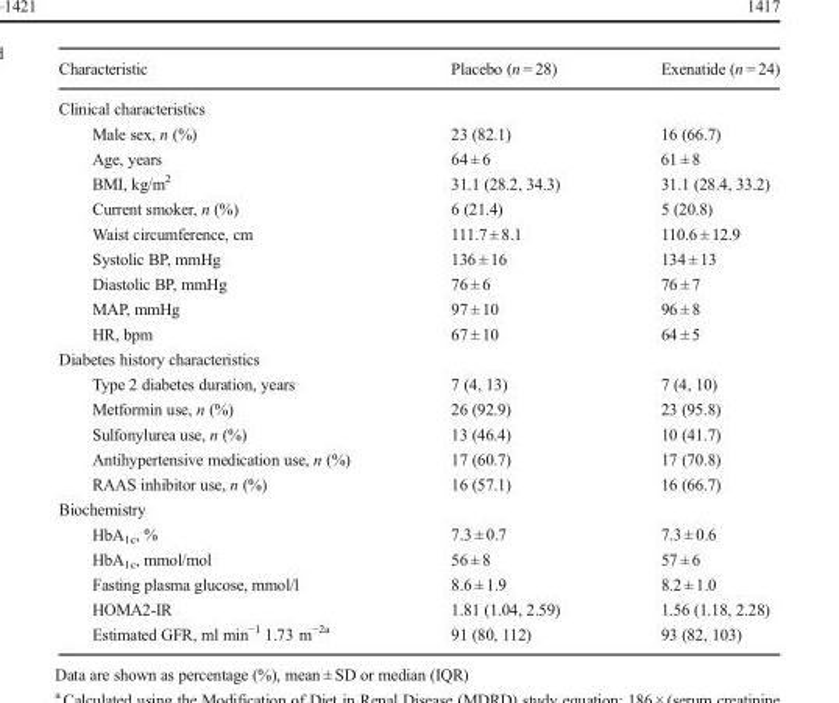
<table><thead><tr><td>Characteristic</td><td>Placebo (n = 28)</td><td>Exenatide (n = 24)</td></tr></thead><tbody><tr><td colspan="3">Clinical characteristics</td></tr><tr><td>Male sex, n (%)</td><td>23 (82.1)</td><td>16 (66.7)</td></tr><tr><td>Age, years</td><td>64 ± 6</td><td>61 ± 8</td></tr><tr><td>BMI, kg/m<sup>2</sup></td><td>31.1 (28.2, 34.3)</td><td>31.1 (28.4, 33.2)</td></tr><tr><td>Current smoker, n (%)</td><td>6 (21.4)</td><td>5 (20.8)</td></tr><tr><td>Waist circumference, cm</td><td>111.7 ± 8.1</td><td>110.6 ± 12.9</td></tr><tr><td>Systolic BP, mmHg</td><td>136 ± 16</td><td>134 ± 13</td></tr><tr><td>Diastolic BP, mmHg</td><td>76 ± 6</td><td>76 ± 7</td></tr><tr><td>MAP, mmHg</td><td>97 ± 10</td><td>96 ± 8</td></tr><tr><td>HR, bpm</td><td>67 ± 10</td><td>64 ± 5</td></tr><tr><td colspan="3">Diabetes history characteristics</td></tr><tr><td>Type 2 diabetes duration, years</td><td>7 (4, 13)</td><td>7 (4, 10)</td></tr><tr><td>Metformin use, n (%)</td><td>26 (92.9)</td><td>23 (95.8)</td></tr><tr><td>Sulfonylurea use, n (%)</td><td>13 (46.4)</td><td>10 (41.7)</td></tr><tr><td>Antihypertensive medication use, n (%)</td><td>17 (60.7)</td><td>17 (70.8)</td></tr><tr><td>RAAS inhibitor use, n (%)</td><td>16 (57.1)</td><td>16 (66.7)</td></tr><tr><td colspan="3">Biochemistry</td></tr><tr><td>HbA<sub>1c</sub>, %</td><td>7.3 ± 0.7</td><td>7.3 ± 0.6</td></tr><tr><td>HbA<sub>1c</sub>, mmol/mol</td><td>56 ± 8</td><td>57 ± 6</td></tr><tr><td>Fasting plasma glucose, mmol/l</td><td>8.6 ± 1.9</td><td>8.2 ± 1.0</td></tr><tr><td>HOMA2-IR</td><td>1.81 (1.04, 2.59)</td><td>1.56 (1.18, 2.28)</td></tr><tr><td>Estimated GFR, ml min<sup>−1</sup> 1.73 m<sup>−2a</sup></td><td>91 (80, 112)</td><td>93 (82, 103)</td></tr></tbody></table>